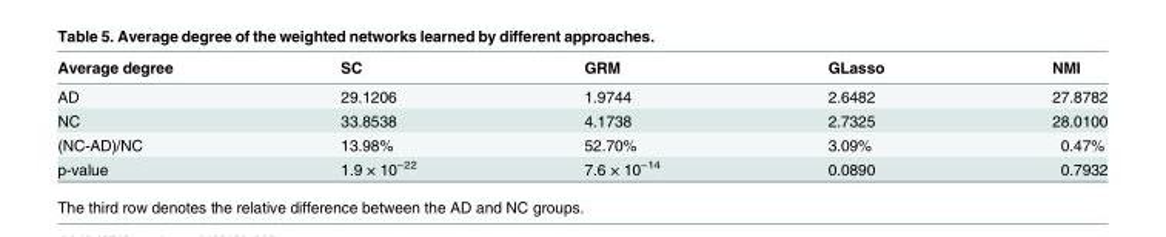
<table><thead><tr><td>Average degree</td><td>SC</td><td>GRM</td><td>GLasso</td><td>NMI</td></tr></thead><tbody><tr><td>AD</td><td>29.1206</td><td>1.9744</td><td>2.6482</td><td>27.8782</td></tr><tr><td>NC</td><td>33.8538</td><td>4.1738</td><td>2.7325</td><td>28.0100</td></tr><tr><td>(NC-AD)/NC</td><td>13.98%</td><td>52.70%</td><td>3.09%</td><td>0.47%</td></tr><tr><td>p-value</td><td>1.9 × 10<sup>−22</sup></td><td>7.6 × 10<sup>−14</sup></td><td>0.0890</td><td>0.7932</td></tr></tbody></table>